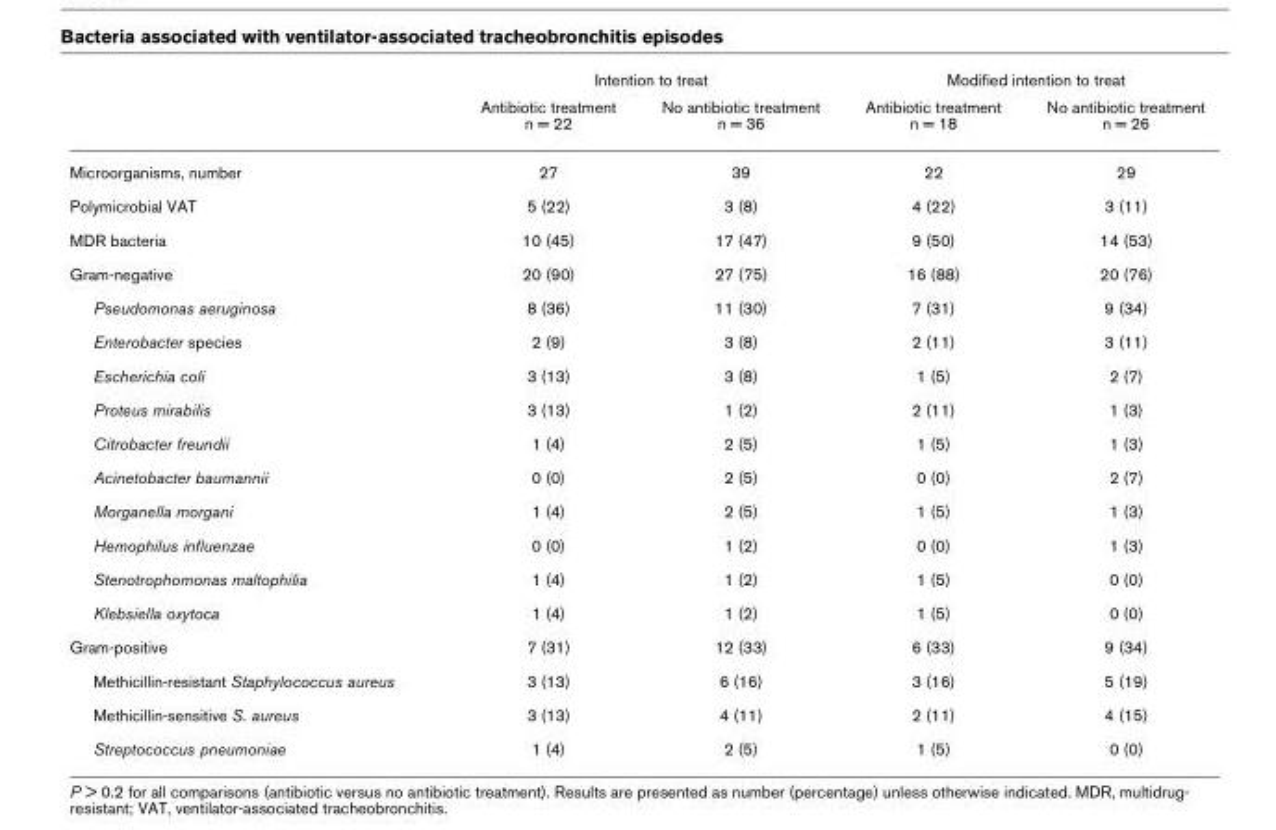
<table><thead><tr><td rowspan="2"></td><td colspan="2">Intention to treat</td><td colspan="2">Modified intention to treat</td></tr><tr><td>Antibiotic treatment n = 22</td><td>No antibiotic treatment n = 36</td><td>Antibiotic treatment n = 18</td><td>No antibiotic treatment n = 26</td></tr></thead><tbody><tr><td>Microorganisms, number</td><td>27</td><td>39</td><td>22</td><td>29</td></tr><tr><td>Polymicrobial VAT</td><td>5 (22)</td><td>3 (8)</td><td>4 (22)</td><td>3 (11)</td></tr><tr><td>MDR bacteria</td><td>10 (45)</td><td>17 (47)</td><td>9 (50)</td><td>14 (53)</td></tr><tr><td>Gram-negative</td><td>20 (90)</td><td>27 (75)</td><td>16 (88)</td><td>20 (76)</td></tr><tr><td>Pseudomonas aeruginosa</td><td>8 (36)</td><td>11 (30)</td><td>7 (31)</td><td>9 (34)</td></tr><tr><td>Enterobacter species</td><td>2 (9)</td><td>3 (8)</td><td>2 (11)</td><td>3 (11)</td></tr><tr><td>Escherichia coli</td><td>3 (13)</td><td>3 (8)</td><td>1 (5)</td><td>2 (7)</td></tr><tr><td>Proteus mirabilis</td><td>3 (13)</td><td>1 (2)</td><td>2 (11)</td><td>1 (3)</td></tr><tr><td>Citrobacter freundii</td><td>1 (4)</td><td>2 (5)</td><td>1 (5)</td><td>1 (3)</td></tr><tr><td>Acinetobacter baumannii</td><td>0 (0)</td><td>2 (5)</td><td>0 (0)</td><td>2 (7)</td></tr><tr><td>Morganella morgani</td><td>1 (4)</td><td>2 (5)</td><td>1 (5)</td><td>1 (3)</td></tr><tr><td>Hemophilus influenzae</td><td>0 (0)</td><td>1 (2)</td><td>0 (0)</td><td>1 (3)</td></tr><tr><td>Stenotrophomonas maltophilia</td><td>1 (4)</td><td>1 (2)</td><td>1 (5)</td><td>0 (0)</td></tr><tr><td>Klebsiella oxytoca</td><td>1 (4)</td><td>1 (2)</td><td>1 (5)</td><td>0 (0)</td></tr><tr><td>Gram-positive</td><td>7 (31)</td><td>12 (33)</td><td>6 (33)</td><td>9 (34)</td></tr><tr><td>Methicillin-resistant Staphylococcus aureus</td><td>3 (13)</td><td>6 (16)</td><td>3 (16)</td><td>5 (19)</td></tr><tr><td>Methicillin-sensitive S. aureus</td><td>3 (13)</td><td>4 (11)</td><td>2 (11)</td><td>4 (15)</td></tr><tr><td>Streptococcus pneumoniae</td><td>1 (4)</td><td>2 (5)</td><td>1 (5)</td><td>0 (0)</td></tr></tbody></table>